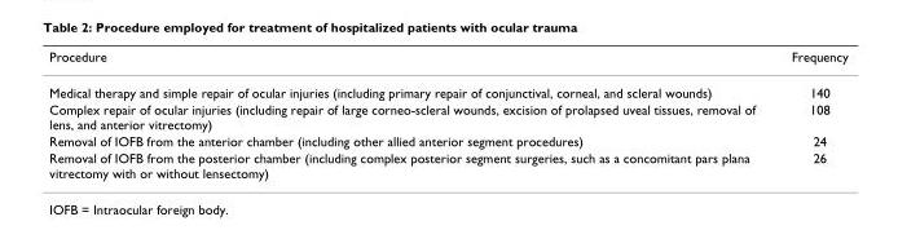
<table><thead><tr><td>Procedure</td><td>Frequency</td></tr></thead><tbody><tr><td>Medical therapy and simple repair of ocular injuries (including primary repair of conjunctival, corneal, and scleral wounds)</td><td>140</td></tr><tr><td>Complex repair of ocular injuries (including repair of large corneo-scleral wounds, excision of prolapsed uveal tissues, removal of lens, and anterior vitrectomy)</td><td>108</td></tr><tr><td>Removal of IOFB from the anterior chamber (including other allied anterior segment procedures)</td><td>24</td></tr><tr><td>Removal of IOFB from the posterior chamber (including complex posterior segment surgeries, such as a concomitant pars plana vitrectomy with or without lensectomy)</td><td>26</td></tr></tbody></table>